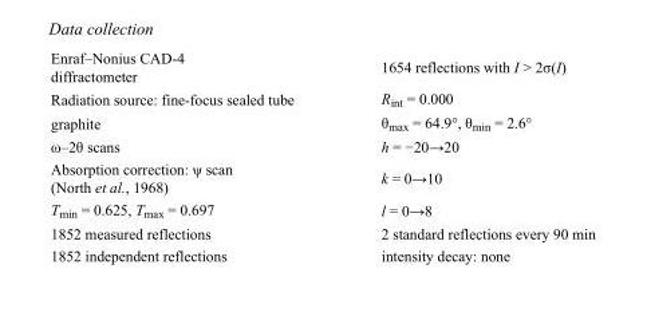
<table><tbody><tr><td>Enraf–Nonius CAD-4 diffractometer</td><td>1654 reflections with I &gt; 2σ(I)</td></tr><tr><td>Radiation source: fine-focus sealed tube</td><td>R<sub>int</sub> = 0.000</td></tr><tr><td>graphite</td><td>θ<sub>max</sub> = 64.9°, θ<sub>min</sub> = 2.6°</td></tr><tr><td>ω–2θ scans</td><td>h = −20→20</td></tr><tr><td>Absorption correction: ψ scan (North et al., 1968)</td><td>k = 0→10</td></tr><tr><td>T<sub>min</sub> = 0.625, T<sub>max</sub> = 0.697</td><td>l = 0→8</td></tr><tr><td>1852 measured reflections</td><td>2 standard reflections every 90 min</td></tr><tr><td>1852 independent reflections</td><td>intensity decay: none</td></tr></tbody></table>